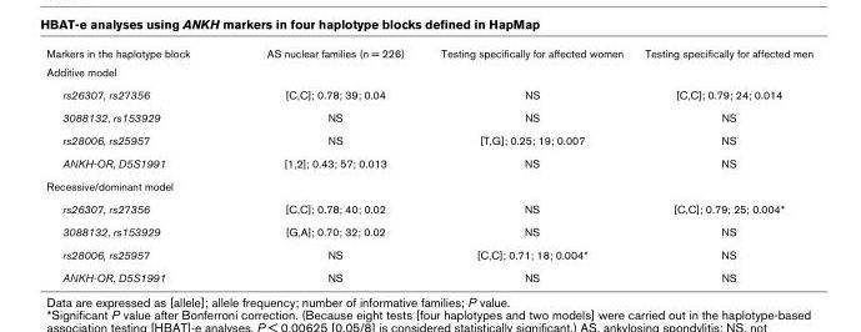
<table><tbody><tr><td>Markers in the haplotype block</td><td>AS nuclear families (n = 226)</td><td>Testing specifically for affected women</td><td>Testing specifically for affected men</td></tr><tr><td colspan="4">Additive model</td></tr><tr><td>rs26307, rs27356</td><td>[C,C]; 0.78; 39; 0.04</td><td>NS</td><td>[C,C]; 0.79; 24; 0.014</td></tr><tr><td>3088132, rs153929</td><td>NS</td><td>NS</td><td>NS</td></tr><tr><td>rs28006, rs25957</td><td>NS</td><td>[T,G]; 0.25; 19; 0.007</td><td>NS</td></tr><tr><td>ANKH-OR, D5S1991</td><td>[1,2]; 0.43; 57; 0.013</td><td>NS</td><td>NS</td></tr><tr><td colspan="4">Recessive/dominant model</td></tr><tr><td>rs26307, rs27356</td><td>[C,C]; 0.78; 40; 0.02</td><td>NS</td><td>[C,C]; 0.79; 25; 0.004*</td></tr><tr><td>3088132, rs153929</td><td>[G,A]; 0.70; 32; 0.02</td><td>NS</td><td>NS</td></tr><tr><td>rs28006, rs25957</td><td>NS</td><td>[C,C]; 0.71; 18; 0.004*</td><td>NS</td></tr><tr><td>ANKH-OR, D5S1991</td><td>NS</td><td>NS</td><td>NS</td></tr></tbody></table>